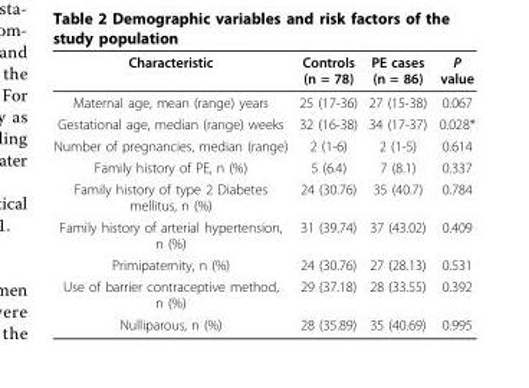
<table><thead><tr><td>Characteristic</td><td>Controls (n = 78)</td><td>PE cases (n = 86)</td><td>P value</td></tr></thead><tbody><tr><td>Maternal age, mean (range) years</td><td>25 (17-36)</td><td>27 (15-38)</td><td>0.067</td></tr><tr><td>Gestational age, median (range) weeks</td><td>32 (16-38)</td><td>34 (17-37)</td><td>0.028*</td></tr><tr><td>Number of pregnancies, median (range)</td><td>2 (1-6)</td><td>2 (1-5)</td><td>0.614</td></tr><tr><td>Family history of PE, n (%)</td><td>5 (6.4)</td><td>7 (8.1)</td><td>0.337</td></tr><tr><td>Family history of type 2 Diabetes mellitus, n (%)</td><td>24 (30.76)</td><td>35 (40.7)</td><td>0.784</td></tr><tr><td>Family history of arterial hypertension, n (%)</td><td>31 (39.74)</td><td>37 (43.02)</td><td>0.409</td></tr><tr><td>Primipaternity, n (%)</td><td>24 (30.76)</td><td>27 (28.13)</td><td>0.531</td></tr><tr><td>Use of barrier contraceptive method, n (%)</td><td>29 (37.18)</td><td>28 (33.55)</td><td>0.392</td></tr><tr><td>Nulliparous, n (%)</td><td>28 (35.89)</td><td>35 (40.69)</td><td>0.995</td></tr></tbody></table>